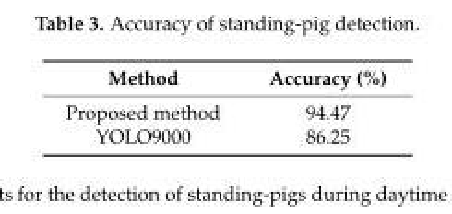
<table><thead><tr><td>Method</td><td>Accuracy (%)</td></tr></thead><tbody><tr><td>Proposed method</td><td>94.47</td></tr><tr><td>YOLO9000</td><td>86.25</td></tr></tbody></table>